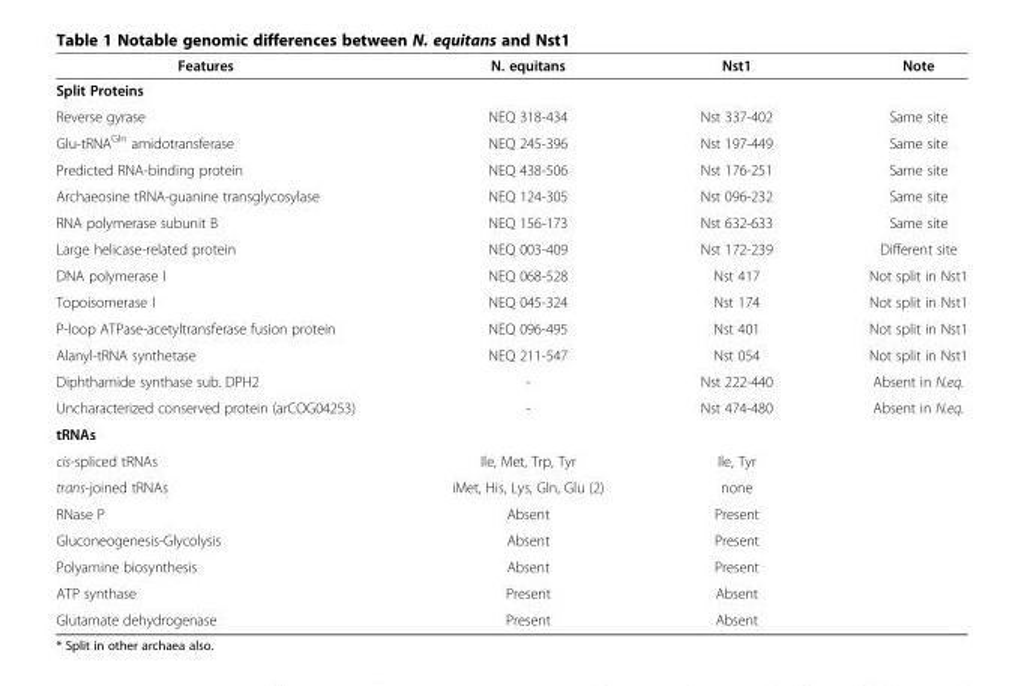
<table><thead><tr><td>Features</td><td>N. equitans</td><td>Nst1</td><td>Note</td></tr></thead><tbody><tr><td colspan="4">Split Proteins</td></tr><tr><td>Reverse gyrase</td><td>NEQ 318-434</td><td>Nst 337-402</td><td>Same site</td></tr><tr><td>Glu-tRNA<sup>Gln</sup> amidotransferase</td><td>NEQ 245-396</td><td>Nst 197-449</td><td>Same site</td></tr><tr><td>Predicted RNA-binding protein</td><td>NEQ 438-506</td><td>Nst 176-251</td><td>Same site</td></tr><tr><td>Archaeosine tRNA-guanine transglycosylase</td><td>NEQ 124-305</td><td>Nst 096-232</td><td>Same site</td></tr><tr><td>RNA polymerase subunit B</td><td>NEQ 156-173</td><td>Nst 632-633</td><td>Same site</td></tr><tr><td>Large helicase-related protein</td><td>NEQ 003-409</td><td>Nst 172-239</td><td>Different site</td></tr><tr><td>DNA polymerase I</td><td>NEQ 068-528</td><td>Nst 417</td><td>Not split in Nst1</td></tr><tr><td>Topoisomerase I</td><td>NEQ 045-324</td><td>Nst 174</td><td>Not split in Nst1</td></tr><tr><td>P-loop ATPase-acetyltransferase fusion protein</td><td>NEQ 096-495</td><td>Nst 401</td><td>Not split in Nst1</td></tr><tr><td>Alanyl-tRNA synthetase</td><td>NEQ 211-547</td><td>Nst 054</td><td>Not split in Nst1</td></tr><tr><td>Diphthamide synthase sub. DPH2</td><td>-</td><td>Nst 222-440</td><td>Absent in N.eq.</td></tr><tr><td>Uncharacterized conserved protein (arCOG04253)</td><td>-</td><td>Nst 474-480</td><td>Absent in N.eq.</td></tr><tr><td colspan="4">tRNAs</td></tr><tr><td>cis-spliced tRNAs</td><td>Ile, Met, Trp, Tyr</td><td>Ile, Tyr</td><td></td></tr><tr><td>trans-joined tRNAs</td><td>iMet, His, Lys, Gln, Glu (2)</td><td>none</td><td></td></tr><tr><td>RNase P</td><td>Absent</td><td>Present</td><td></td></tr><tr><td>Gluconeogenesis-Glycolysis</td><td>Absent</td><td>Present</td><td></td></tr><tr><td>Polyamine biosynthesis</td><td>Absent</td><td>Present</td><td></td></tr><tr><td>ATP synthase</td><td>Present</td><td>Absent</td><td></td></tr><tr><td>Glutamate dehydrogenase</td><td>Present</td><td>Absent</td><td></td></tr></tbody></table>